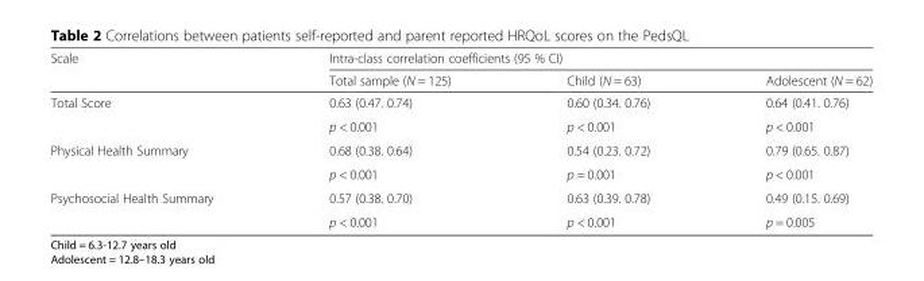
<table><thead><tr><td rowspan="2">Scale</td><td colspan="3">Intra-class correlation coefficients (95 % CI)</td></tr><tr><td>Total sample (N = 125)</td><td>Child (N = 63)</td><td>Adolescent (N = 62)</td></tr></thead><tbody><tr><td rowspan="2">Total Score</td><td>0.63 (0.47. 0.74)</td><td>0.60 (0.34. 0.76)</td><td>0.64 (0.41. 0.76)</td></tr><tr><td>p &lt; 0.001</td><td>p &lt; 0.001</td><td>p &lt; 0.001</td></tr><tr><td rowspan="2">Physical Health Summary</td><td>0.68 (0.38. 0.64)</td><td>0.54 (0.23. 0.72)</td><td>0.79 (0.65. 0.87)</td></tr><tr><td>p &lt; 0.001</td><td>p = 0.001</td><td>p &lt; 0.001</td></tr><tr><td rowspan="2">Psychosocial Health Summary</td><td>0.57 (0.38. 0.70)</td><td>0.63 (0.39. 0.78)</td><td>0.49 (0.15. 0.69)</td></tr><tr><td>p &lt; 0.001</td><td>p &lt; 0.001</td><td>p = 0.005</td></tr></tbody></table>